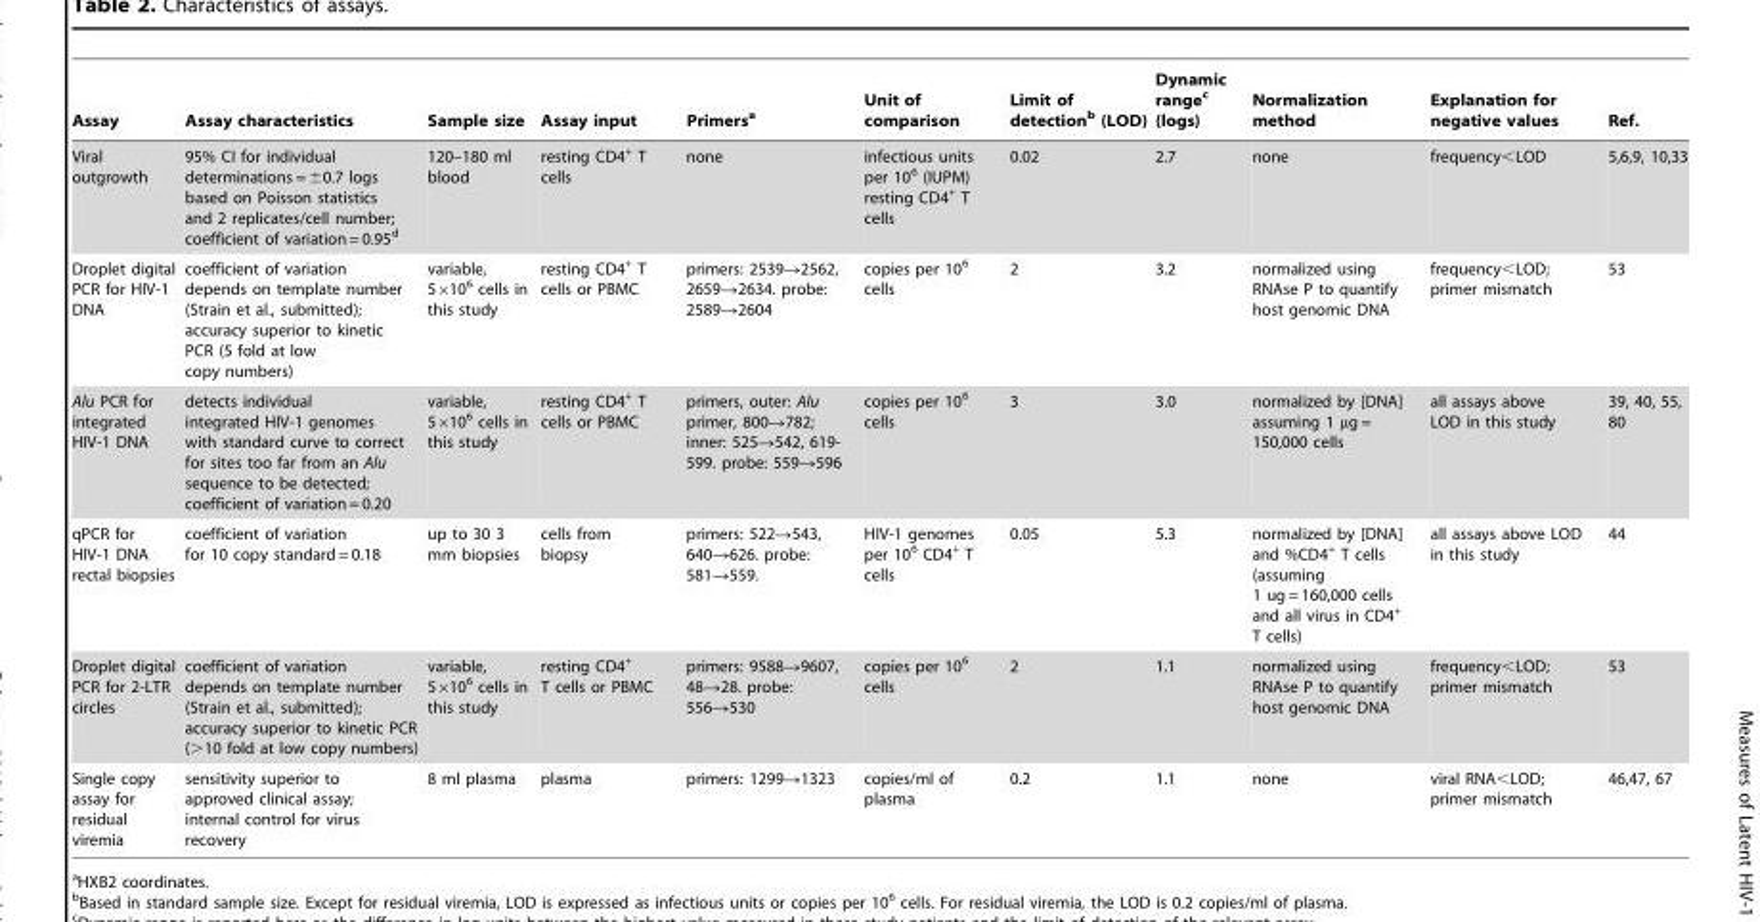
<table><thead><tr><td>Assay</td><td>Assay characteristics</td><td>Sample size</td><td>Assay input</td><td>Primers<sup>a</sup></td><td>Unit of comparison</td><td>Limit of detection<sup>b</sup> (LOD)</td><td>Dynamic range<sup>c</sup> (logs)</td><td>Normalization method</td><td>Explanation for negative values</td><td>Ref.</td></tr></thead><tbody><tr><td>Viral outgrowth</td><td>95% CI for individual determinations = ±0.7 logs based on Poisson statistics and 2 replicates/cell number; coefficient of variation = 0.95<sup>d</sup></td><td>120–180 ml blood</td><td>resting CD4<sup>+</sup> T cells</td><td>none</td><td>infectious units per 10<sup>6</sup> (IUPM) resting CD4<sup>+</sup> T cells</td><td>0.02</td><td>2.7</td><td>none</td><td>frequency&lt;LOD</td><td>5,6,9, 10,33</td></tr><tr><td>Droplet digital PCR for HIV-1 DNA</td><td>coefficient of variation depends on template number (Strain et al., submitted); accuracy superior to kinetic PCR (5 fold at low copy numbers)</td><td>variable, 5×10<sup>6</sup> cells in this study</td><td>resting CD4<sup>+</sup> T cells or PBMC</td><td>primers: 2539→2562, 2659→2634. probe: 2589→2604</td><td>copies per 10<sup>6</sup> cells</td><td>2</td><td>3.2</td><td>normalized using RNAse P to quantify host genomic DNA</td><td>frequency&lt;LOD; primer mismatch</td><td>53</td></tr><tr><td>Alu PCR for integrated HIV-1 DNA</td><td>detects individual integrated HIV-1 genomes with standard curve to correct for sites too far from an Alu sequence to be detected; coefficient of variation = 0.20</td><td>variable, 5×10<sup>6</sup> cells in this study</td><td>resting CD4<sup>+</sup> T cells or PBMC</td><td>primers, outer: Alu primer, 800→782; inner: 525→542, 619- 599. probe: 559→596</td><td>copies per 10<sup>6</sup> cells</td><td>3</td><td>3.0</td><td>normalized by [DNA] assuming 1 µg = 150,000 cells</td><td>all assays above LOD in this study</td><td>39, 40, 55, 80</td></tr><tr><td>qPCR for HIV-1 DNA rectal biopsies</td><td>coefficient of variation for 10 copy standard = 0.18</td><td>up to 30 3 mm biopsies</td><td>cells from biopsy</td><td>primers: 522→543, 640→626. probe: 581→559.</td><td>HIV-1 genomes per 10<sup>6</sup> CD4<sup>+</sup> T cells</td><td>0.05</td><td>5.3</td><td>normalized by [DNA] and %CD4<sup>+</sup> T cells (assuming 1 ug = 160,000 cells and all virus in CD4<sup>+</sup> T cells)</td><td>all assays above LOD in this study</td><td>44</td></tr><tr><td>Droplet digital PCR for 2-LTR circles</td><td>coefficient of variation depends on template number (Strain et al., submitted); accuracy superior to kinetic PCR (&gt;10 fold at low copy numbers)</td><td>variable, 5×10<sup>6</sup> cells in this study</td><td>resting CD4<sup>+</sup> T cells or PBMC</td><td>primers: 9588→9607, 48→28. probe: 556→530</td><td>copies per 10<sup>6</sup> cells</td><td>2</td><td>1.1</td><td>normalized using RNAse P to quantify host genomic DNA</td><td>frequency&lt;LOD; primer mismatch</td><td>53</td></tr><tr><td>Single copy assay for residual viremia</td><td>sensitivity superior to approved clinical assay; internal control for virus recovery</td><td>8 ml plasma</td><td>plasma</td><td>primers: 1299→1323</td><td>copies/ml of plasma</td><td>0.2</td><td>1.1</td><td>none</td><td>viral RNA&lt;LOD; primer mismatch</td><td>46,47, 67</td></tr></tbody></table>